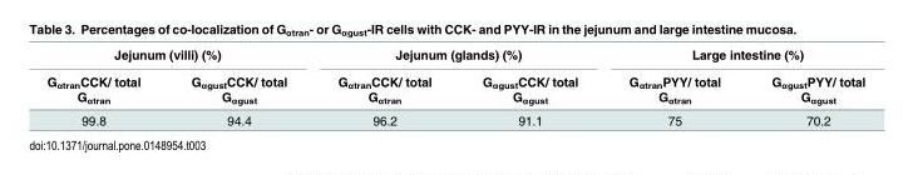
<table><thead><tr><td colspan="2">Jejunum (villi) (%)</td><td colspan="2">Jejunum (glands) (%)</td><td colspan="2">Large intestine (%)</td></tr><tr><td>G<sub>αtran</sub>CCK/ total G<sub>αtran</sub></td><td>G<sub>αgust</sub>CCK/ total G<sub>αgust</sub></td><td>G<sub>αtran</sub>CCK/ total G<sub>αtran</sub></td><td>G<sub>αgust</sub>CCK/ total G<sub>αgust</sub></td><td>G<sub>αtran</sub>PYY/ total G<sub>αtran</sub></td><td>G<sub>αgust</sub>PYY/ total G<sub>αgust</sub></td></tr></thead><tbody><tr><td>99.8</td><td>94.4</td><td>96.2</td><td>91.1</td><td>75</td><td>70.2</td></tr></tbody></table>